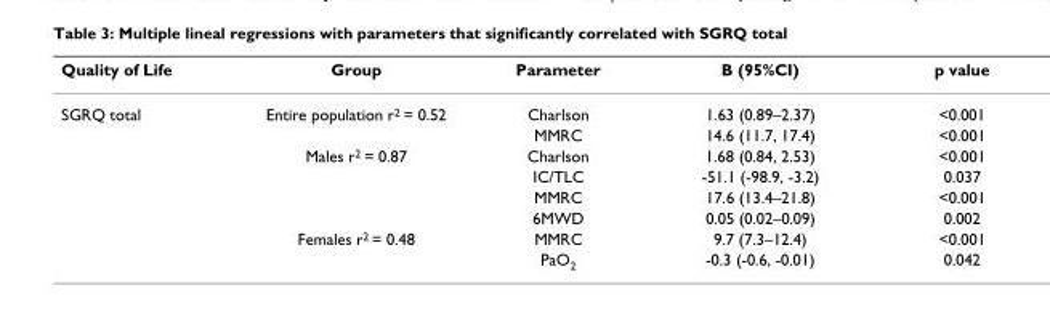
<table><thead><tr><td>Quality of Life</td><td>Group</td><td>Parameter</td><td>B (95%CI)</td><td>p value</td></tr></thead><tbody><tr><td rowspan="8">SGRQ total</td><td>Entire population r<sup>2</sup> = 0.52</td><td>Charlson</td><td>1.63 (0.89–2.37)</td><td>&lt;0.001</td></tr><tr><td></td><td>MMRC</td><td>14.6 (11.7, 17.4)</td><td>&lt;0.001</td></tr><tr><td>Males r<sup>2</sup> = 0.87</td><td>Charlson</td><td>1.68 (0.84, 2.53)</td><td>&lt;0.001</td></tr><tr><td></td><td>IC/TLC</td><td>-51.1 (-98.9, -3.2)</td><td>0.037</td></tr><tr><td></td><td>MMRC</td><td>17.6 (13.4–21.8)</td><td>&lt;0.001</td></tr><tr><td></td><td>6MWD</td><td>0.05 (0.02–0.09)</td><td>0.002</td></tr><tr><td>Females r<sup>2</sup> = 0.48</td><td>MMRC</td><td>9.7 (7.3–12.4)</td><td>&lt;0.001</td></tr><tr><td></td><td>PaO<sub>2</sub></td><td>-0.3 (-0.6, -0.01)</td><td>0.042</td></tr></tbody></table>